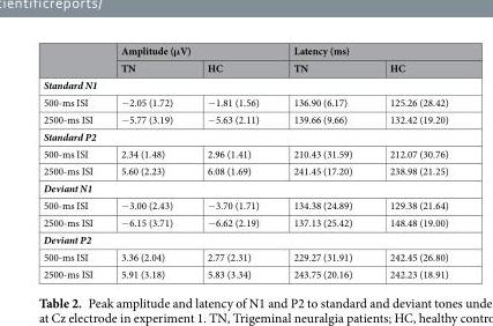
<table><thead><tr><td rowspan="2"></td><td colspan="2">Amplitude (μV)</td><td colspan="2">Latency (ms)</td></tr><tr><td>TN</td><td>HC</td><td>TN</td><td>HC</td></tr></thead><tbody><tr><td colspan="5">Standard N1</td></tr><tr><td>500-ms ISI</td><td>−2.05 (1.72)</td><td>−1.81 (1.56)</td><td>136.90 (6.17)</td><td>125.26 (28.42)</td></tr><tr><td>2500-ms ISI</td><td>−5.77 (3.19)</td><td>−5.63 (2.11)</td><td>139.66 (9.66)</td><td>132.42 (19.20)</td></tr><tr><td colspan="5">Standard P2</td></tr><tr><td>500-ms ISI</td><td>2.34 (1.48)</td><td>2.96 (1.41)</td><td>210.43 (31.59)</td><td>212.07 (30.76)</td></tr><tr><td>2500-ms ISI</td><td>5.60 (2.23)</td><td>6.08 (1.69)</td><td>241.45 (17.20)</td><td>238.98 (21.25)</td></tr><tr><td colspan="5">Deviant N1</td></tr><tr><td>500-ms ISI</td><td>−3.00 (2.43)</td><td>−3.70 (1.71)</td><td>134.38 (24.89)</td><td>129.38 (21.64)</td></tr><tr><td>2500-ms ISI</td><td>−6.15 (3.71)</td><td>−6.62 (2.19)</td><td>137.13 (25.42)</td><td>148.48 (19.00)</td></tr><tr><td colspan="5">Deviant P2</td></tr><tr><td>500-ms ISI</td><td>3.36 (2.04)</td><td>2.77 (2.31)</td><td>229.27 (31.91)</td><td>242.45 (26.80)</td></tr><tr><td>2500-ms ISI</td><td>5.91 (3.18)</td><td>5.83 (3.34)</td><td>243.75 (20.16)</td><td>242.23 (18.91)</td></tr></tbody></table>